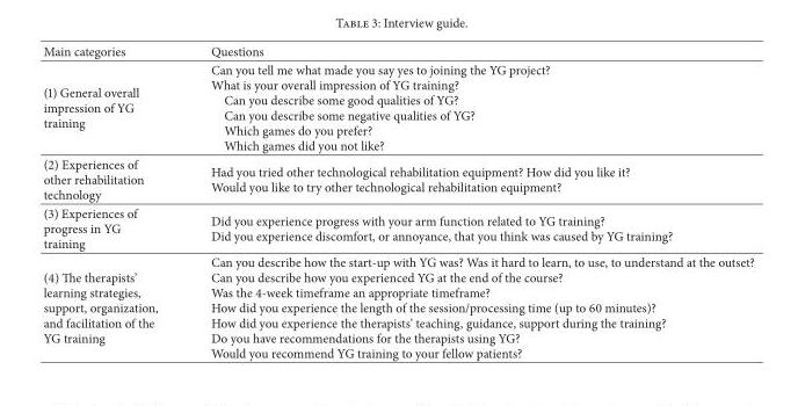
<table><thead><tr><td>Main categories</td><td>Questions</td></tr></thead><tbody><tr><td>(1) General overall impression of YG training</td><td>Can you tell me what made you say yes to joining the YG project? What is your overall impression of YG training? Can you describe some good qualities of YG? Can you describe some negative qualities of YG? Which games do you prefer? Which games did you not like?</td></tr><tr><td>(2) Experiences of other rehabilitation technology</td><td>Had you tried other technological rehabilitation equipment? How did you like it? Would you like to try other technological rehabilitation equipment?</td></tr><tr><td>(3) Experiences of progress in YG training</td><td>Did you experience progress with your arm function related to YG training? Did you experience discomfort, or annoyance, that you think was caused by YG training?</td></tr><tr><td>(4) The therapists’ learning strategies, support, organization, and facilitation of the YG training</td><td>Can you describe how the start-up with YG was? Was it hard to learn, to use, to understand at the outset? Can you describe how you experienced YG at the end of the course? Was the 4-week timeframe an appropriate timeframe? How did you experience the length of the session/processing time (up to 60 minutes)? How did you experience the therapists’ teaching, guidance, support during the training? Do you have recommendations for the therapists using YG? Would you recommend YG training to your fellow patients?</td></tr></tbody></table>